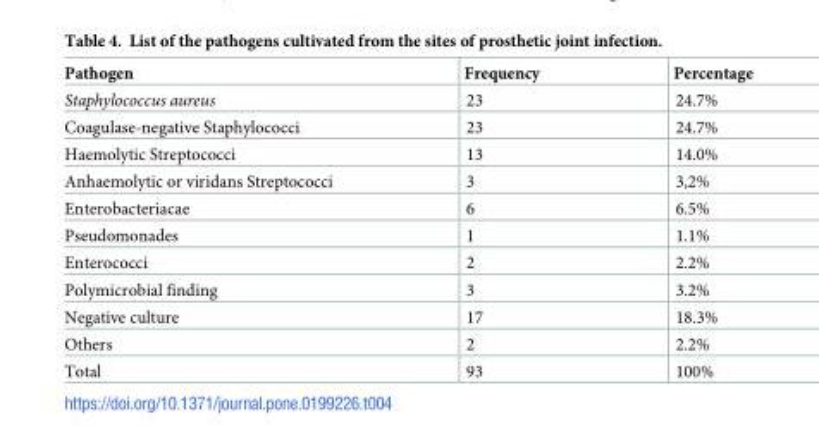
<table><thead><tr><td>Pathogen</td><td>Frequency</td><td>Percentage</td></tr></thead><tbody><tr><td>Staphylococcus aureus</td><td>23</td><td>24.7%</td></tr><tr><td>Coagulase-negative Staphylococci</td><td>23</td><td>24.7%</td></tr><tr><td>Haemolytic Streptococci</td><td>13</td><td>14.0%</td></tr><tr><td>Anhaemolytic or viridans Streptococci</td><td>3</td><td>3,2%</td></tr><tr><td>Enterobacteriacae</td><td>6</td><td>6.5%</td></tr><tr><td>Pseudomonades</td><td>1</td><td>1.1%</td></tr><tr><td>Enterococci</td><td>2</td><td>2.2%</td></tr><tr><td>Polymicrobial finding</td><td>3</td><td>3.2%</td></tr><tr><td>Negative culture</td><td>17</td><td>18.3%</td></tr><tr><td>Others</td><td>2</td><td>2.2%</td></tr><tr><td>Total</td><td>93</td><td>100%</td></tr></tbody></table>